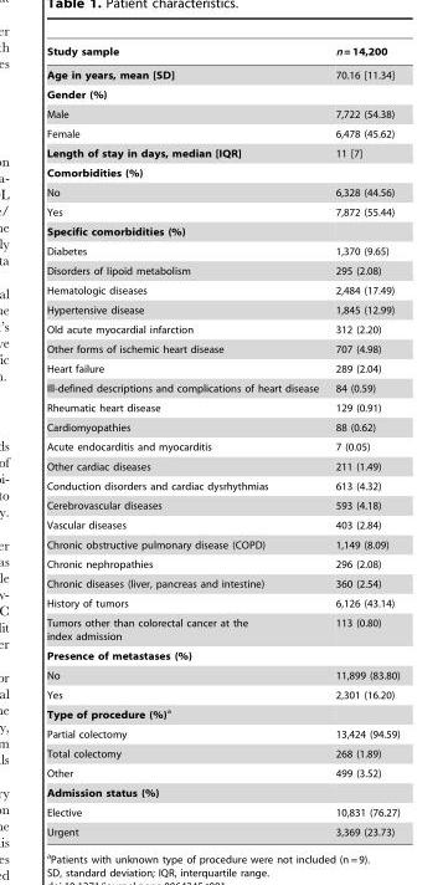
<table><thead><tr><td>Study sample</td><td>n = 14,200</td></tr></thead><tbody><tr><td>Age in years, mean [SD]</td><td>70.16 [11.34]</td></tr><tr><td colspan="2">Gender (%)</td></tr><tr><td>Male</td><td>7,722 (54.38)</td></tr><tr><td>Female</td><td>6,478 (45.62)</td></tr><tr><td>Length of stay in days, median [IQR]</td><td>11 [7]</td></tr><tr><td colspan="2">Comorbidities (%)</td></tr><tr><td>No</td><td>6,328 (44.56)</td></tr><tr><td>Yes</td><td>7,872 (55.44)</td></tr><tr><td colspan="2">Specific comorbidities (%)</td></tr><tr><td>Diabetes</td><td>1,370 (9.65)</td></tr><tr><td>Disorders of lipoid metabolism</td><td>295 (2.08)</td></tr><tr><td>Hematologic diseases</td><td>2,484 (17.49)</td></tr><tr><td>Hypertensive disease</td><td>1,845 (12.99)</td></tr><tr><td>Old acute myocardial infarction</td><td>312 (2.20)</td></tr><tr><td>Other forms of ischemic heart disease</td><td>707 (4.98)</td></tr><tr><td>Heart failure</td><td>289 (2.04)</td></tr><tr><td>Ill-defined descriptions and complications of heart disease</td><td>84 (0.59)</td></tr><tr><td>Rheumatic heart disease</td><td>129 (0.91)</td></tr><tr><td>Cardiomyopathies</td><td>88 (0.62)</td></tr><tr><td>Acute endocarditis and myocarditis</td><td>7 (0.05)</td></tr><tr><td>Other cardiac diseases</td><td>211 (1.49)</td></tr><tr><td>Conduction disorders and cardiac dysrhythmias</td><td>613 (4.32)</td></tr><tr><td>Cerebrovascular diseases</td><td>593 (4.18)</td></tr><tr><td>Vascular diseases</td><td>403 (2.84)</td></tr><tr><td>Chronic obstructive pulmonary disease (COPD)</td><td>1,149 (8.09)</td></tr><tr><td>Chronic nephropathies</td><td>296 (2.08)</td></tr><tr><td>Chronic diseases (liver, pancreas and intestine)</td><td>360 (2.54)</td></tr><tr><td>History of tumors</td><td>6,126 (43.14)</td></tr><tr><td>Tumors other than colorectal cancer at the index admission</td><td>113 (0.80)</td></tr><tr><td colspan="2">Presence of metastases (%)</td></tr><tr><td>No</td><td>11,899 (83.80)</td></tr><tr><td>Yes</td><td>2,301 (16.20)</td></tr><tr><td colspan="2">Type of procedure (%)a</td></tr><tr><td>Partial colectomy</td><td>13,424 (94.59)</td></tr><tr><td>Total colectomy</td><td>268 (1.89)</td></tr><tr><td>Other</td><td>499 (3.52)</td></tr><tr><td colspan="2">Admission status (%)</td></tr><tr><td>Elective</td><td>10,831 (76.27)</td></tr><tr><td>Urgent</td><td>3,369 (23.73)</td></tr></tbody></table>